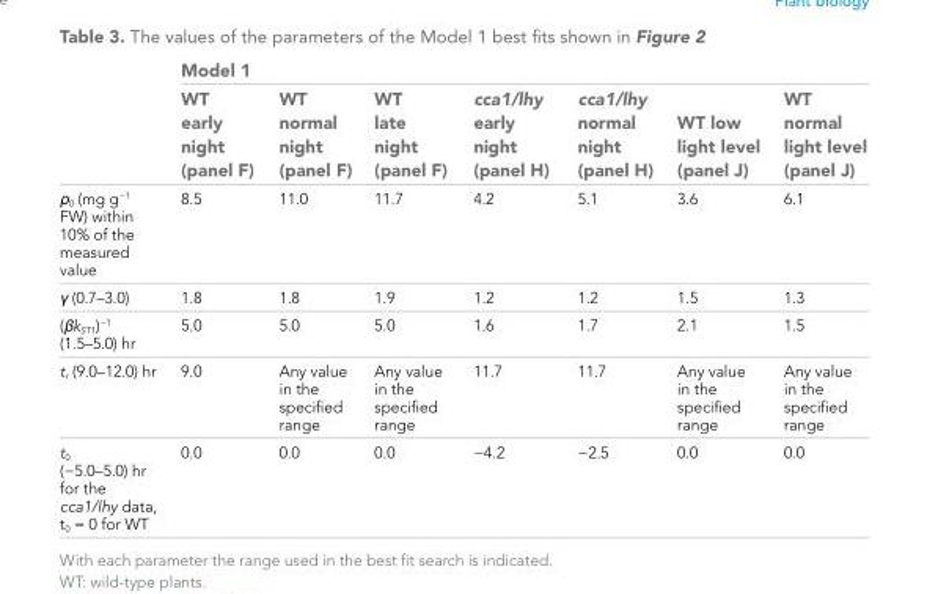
<table><thead><tr><td rowspan="2"></td><td colspan="7">Model 1</td></tr><tr><td>WT early night (panel F)</td><td>WT normal night (panel F)</td><td>WT late night (panel F)</td><td>cca1/lhy early night (panel H)</td><td>cca1/lhy normal night (panel H)</td><td>WT low light level (panel J)</td><td>WT normal light level (panel J)</td></tr></thead><tbody><tr><td>ρ<sub>0</sub> (mg g<sup>−1</sup> FW) within 10% of the measured value</td><td>8.5</td><td>11.0</td><td>11.7</td><td>4.2</td><td>5.1</td><td>3.6</td><td>6.1</td></tr><tr><td>γ (0.7–3.0)</td><td>1.8</td><td>1.8</td><td>1.9</td><td>1.2</td><td>1.2</td><td>1.5</td><td>1.3</td></tr><tr><td>(βk<sub>ST1</sub>)<sup>−1</sup> (1.5–5.0) hr</td><td>5.0</td><td>5.0</td><td>5.0</td><td>1.6</td><td>1.7</td><td>2.1</td><td>1.5</td></tr><tr><td>t<sub>r</sub> (9.0–12.0) hr</td><td>9.0</td><td>Any value in the specified range</td><td>Any value in the specified range</td><td>11.7</td><td>11.7</td><td>Any value in the specified range</td><td>Any value in the specified range</td></tr><tr><td>t<sub>0</sub> (−5.0–5.0) hr for the cca1/lhy data, t<sub>0</sub> = 0 for WT</td><td>0.0</td><td>0.0</td><td>0.0</td><td>−4.2</td><td>−2.5</td><td>0.0</td><td>0.0</td></tr></tbody></table>